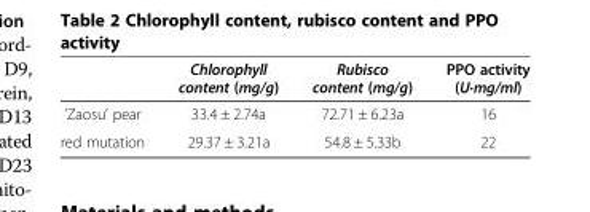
<table><thead><tr><td></td><td>Chlorophyll content (mg/g)</td><td>Rubisco content (mg/g)</td><td>PPO activity (U·mg/ml)</td></tr></thead><tbody><tr><td>‘Zaosu’ pear</td><td>33.4 ± 2.74a</td><td>72.71 ± 6.23a</td><td>16</td></tr><tr><td>red mutation</td><td>29.37 ± 3.21a</td><td>54.8 ± 5.33b</td><td>22</td></tr></tbody></table>